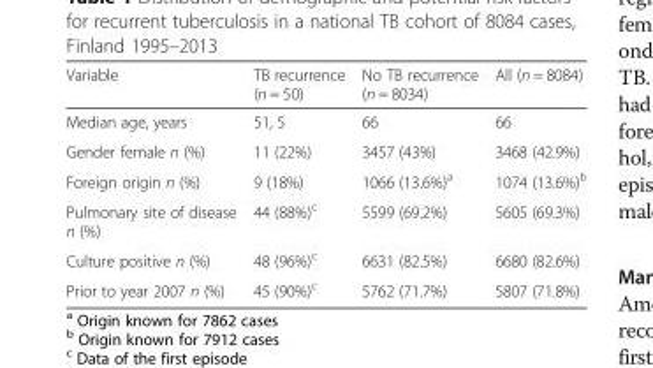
<table><thead><tr><td>Variable</td><td>TB recurrence (n = 50)</td><td>No TB recurrence (n = 8034)</td><td>All (n = 8084)</td></tr></thead><tbody><tr><td>Median age, years</td><td>51, 5</td><td>66</td><td>66</td></tr><tr><td>Gender female n (%)</td><td>11 (22%)</td><td>3457 (43%)</td><td>3468 (42.9%)</td></tr><tr><td>Foreign origin n (%)</td><td>9 (18%)</td><td>1066 (13.6%)<sup>a</sup></td><td>1074 (13.6%)<sup>b</sup></td></tr><tr><td>Pulmonary site of disease n (%)</td><td>44 (88%)<sup>c</sup></td><td>5599 (69.2%)</td><td>5605 (69.3%)</td></tr><tr><td>Culture positive n (%)</td><td>48 (96%)<sup>c</sup></td><td>6631 (82.5%)</td><td>6680 (82.6%)</td></tr><tr><td>Prior to year 2007 n (%)</td><td>45 (90%)<sup>c</sup></td><td>5762 (71.7%)</td><td>5807 (71.8%)</td></tr></tbody></table>